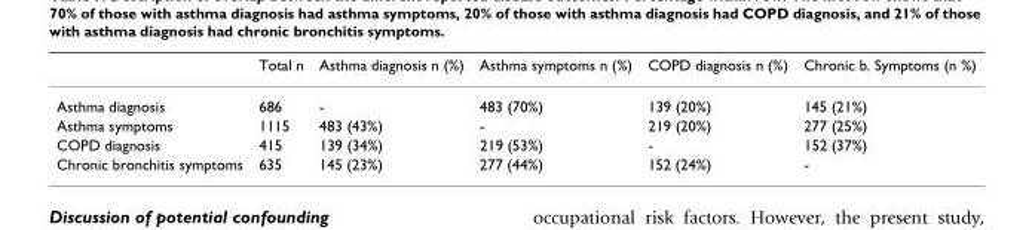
<table><thead><tr><td></td><td>Total n</td><td>Asthma diagnosis n (%)</td><td>Asthma symptoms n (%)</td><td>COPD diagnosis n (%)</td><td>Chronic b. Symptoms (n %)</td></tr></thead><tbody><tr><td>Asthma diagnosis</td><td>686</td><td>-</td><td>483 (70%)</td><td>139 (20%)</td><td>145 (21%)</td></tr><tr><td>Asthma symptoms</td><td>1115</td><td>483 (43%)</td><td>-</td><td>219 (20%)</td><td>277 (25%)</td></tr><tr><td>COPD diagnosis</td><td>415</td><td>139 (34%)</td><td>219 (53%)</td><td>-</td><td>152 (37%)</td></tr><tr><td>Chronic bronchitis symptoms</td><td>635</td><td>145 (23%)</td><td>277 (44%)</td><td>152 (24%)</td><td>-</td></tr></tbody></table>